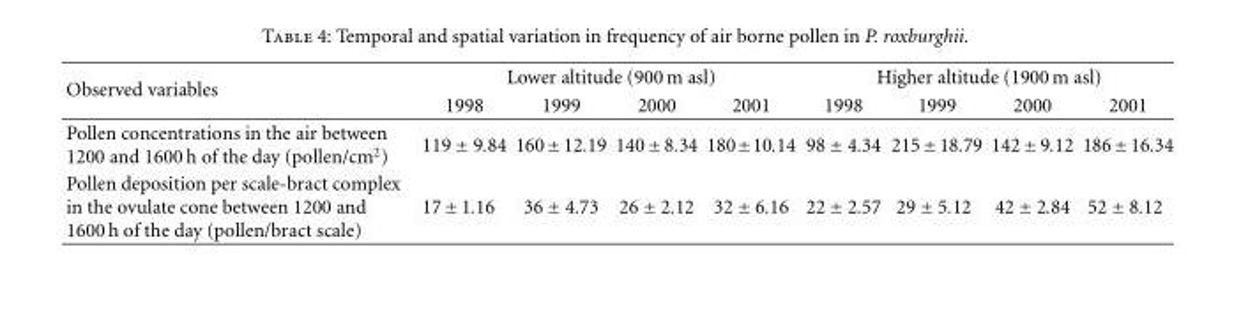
<table><thead><tr><td rowspan="2">Observed variables</td><td colspan="4">Lower altitude (900 m asl)</td><td colspan="4">Higher altitude (1900 m asl)</td></tr><tr><td>1998</td><td>1999</td><td>2000</td><td>2001</td><td>1998</td><td>1999</td><td>2000</td><td>2001</td></tr></thead><tbody><tr><td>Pollen concentrations in the air between 1200 and 1600 h of the day (pollen/cm<sup>2</sup>)</td><td>119 ± 9.84</td><td>160±12.19</td><td>140 ±8.34</td><td>180±10.14</td><td>98 ± 4.34</td><td>215±18.79</td><td>142 ±9.12</td><td>186±16.34</td></tr><tr><td>Pollen deposition per scale-bract complex in the ovulate cone between 1200 and 1600 h of the day (pollen/bract scale)</td><td>17 ±1.16</td><td>36 ± 4.73</td><td>26 ± 2.12</td><td>32 ± 6.16</td><td>22 ± 2.57</td><td>29 ± 5.12</td><td>42 ± 2.84</td><td>52 ± 8.12</td></tr></tbody></table>